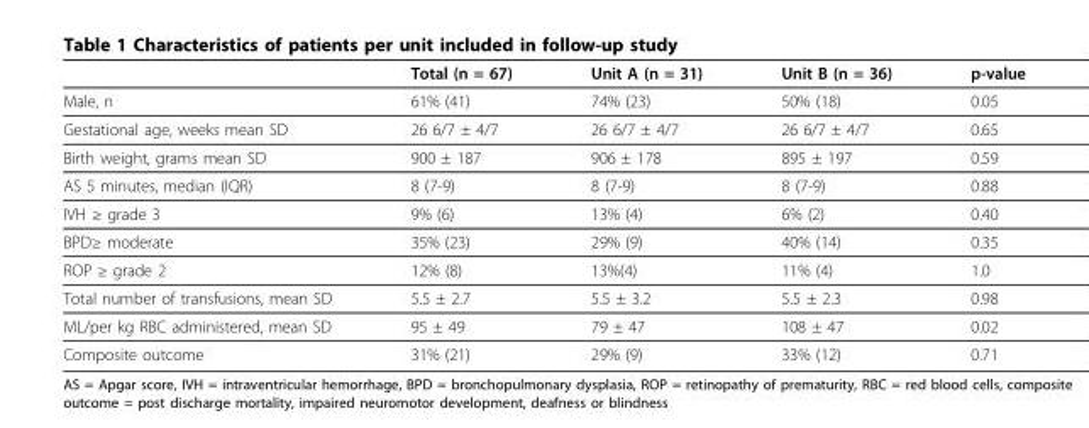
<table><thead><tr><td></td><td>Total (n = 67)</td><td>Unit A (n = 31)</td><td>Unit B (n = 36)</td><td>p-value</td></tr></thead><tbody><tr><td>Male, n</td><td>61% (41)</td><td>74% (23)</td><td>50% (18)</td><td>0.05</td></tr><tr><td>Gestational age, weeks mean SD</td><td>26 6/7 ± 4/7</td><td>26 6/7 ± 4/7</td><td>26 6/7 ± 4/7</td><td>0.65</td></tr><tr><td>Birth weight, grams mean SD</td><td>900 ± 187</td><td>906 ± 178</td><td>895 ± 197</td><td>0.59</td></tr><tr><td>AS 5 minutes, median (IQR)</td><td>8 (7-9)</td><td>8 (7-9)</td><td>8 (7-9)</td><td>0.88</td></tr><tr><td>IVH ≥ grade 3</td><td>9% (6)</td><td>13% (4)</td><td>6% (2)</td><td>0.40</td></tr><tr><td>BPD≥ moderate</td><td>35% (23)</td><td>29% (9)</td><td>40% (14)</td><td>0.35</td></tr><tr><td>ROP ≥ grade 2</td><td>12% (8)</td><td>13%(4)</td><td>11% (4)</td><td>1.0</td></tr><tr><td>Total number of transfusions, mean SD</td><td>5.5 ± 2.7</td><td>5.5 ± 3.2</td><td>5.5 ± 2.3</td><td>0.98</td></tr><tr><td>ML/per kg RBC administered, mean SD</td><td>95 ± 49</td><td>79 ± 47</td><td>108 ± 47</td><td>0.02</td></tr><tr><td>Composite outcome</td><td>31% (21)</td><td>29% (9)</td><td>33% (12)</td><td>0.71</td></tr></tbody></table>